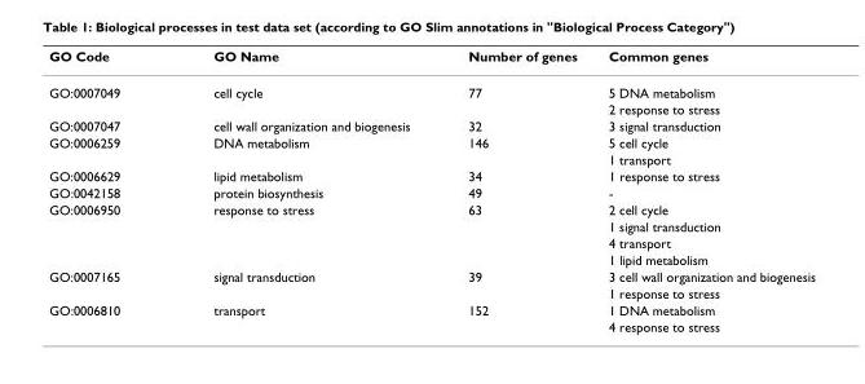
<table><thead><tr><td>GO Code</td><td>GO Name</td><td>Number of genes</td><td>Common genes</td></tr></thead><tbody><tr><td rowspan="2">GO:0007049</td><td>cell cycle</td><td>77</td><td>5 DNA metabolism</td></tr><tr><td></td><td></td><td>2 response to stress</td></tr><tr><td>GO:0007047</td><td>cell wall organization and biogenesis</td><td>32</td><td>3 signal transduction</td></tr><tr><td rowspan="2">GO:0006259</td><td>DNA metabolism</td><td>146</td><td>5 cell cycle</td></tr><tr><td></td><td></td><td>1 transport</td></tr><tr><td>GO:0006629</td><td>lipid metabolism</td><td>34</td><td>1 response to stress</td></tr><tr><td>GO:0042158</td><td>protein biosynthesis</td><td>49</td><td>-</td></tr><tr><td rowspan="4">GO:0006950</td><td>response to stress</td><td>63</td><td>2 cell cycle</td></tr><tr><td></td><td></td><td>1 signal transduction</td></tr><tr><td></td><td></td><td>4 transport</td></tr><tr><td></td><td></td><td>1 lipid metabolism</td></tr><tr><td rowspan="2">GO:0007165</td><td>signal transduction</td><td>39</td><td>3 cell wall organization and biogenesis</td></tr><tr><td></td><td></td><td>1 response to stress</td></tr><tr><td rowspan="2">GO:0006810</td><td>transport</td><td>152</td><td>1 DNA metabolism</td></tr><tr><td></td><td></td><td>4 response to stress</td></tr></tbody></table>